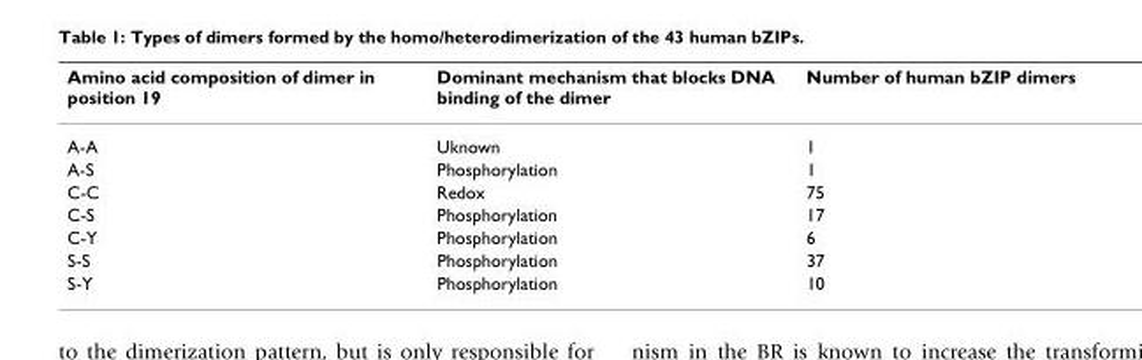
<table><thead><tr><td>Amino acid composition of dimer in position 19</td><td>Dominant mechanism that blocks DNA binding of the dimer</td><td>Number of human bZIP dimers</td></tr></thead><tbody><tr><td>A-A</td><td>Uknown</td><td>1</td></tr><tr><td>A-S</td><td>Phosphorylation</td><td>1</td></tr><tr><td>C-C</td><td>Redox</td><td>75</td></tr><tr><td>C-S</td><td>Phosphorylation</td><td>17</td></tr><tr><td>C-Y</td><td>Phosphorylation</td><td>6</td></tr><tr><td>S-S</td><td>Phosphorylation</td><td>37</td></tr><tr><td>S-Y</td><td>Phosphorylation</td><td>10</td></tr></tbody></table>